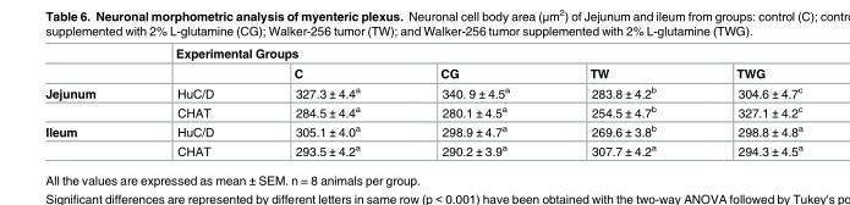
<table><thead><tr><td rowspan="2"></td><td colspan="5">Experimental Groups</td></tr><tr><td></td><td>C</td><td>CG</td><td>TW</td><td>TWG</td></tr></thead><tbody><tr><td rowspan="2">Jejunum</td><td>HuC/D</td><td>327.3 ± 4.4<sup>a</sup></td><td>340. 9 ± 4.5<sup>a</sup></td><td>283.8 ± 4.2<sup>b</sup></td><td>304.6 ± 4.7<sup>c</sup></td></tr><tr><td>CHAT</td><td>284.5 ± 4.4<sup>a</sup></td><td>280.1 ± 4.5<sup>a</sup></td><td>254.5 ± 4.7<sup>b</sup></td><td>327.1 ± 4.2<sup>c</sup></td></tr><tr><td rowspan="2">Ileum</td><td>HuC/D</td><td>305.1 ± 4.0<sup>a</sup></td><td>298.9 ± 4.7<sup>a</sup></td><td>269.6 ± 3.8<sup>b</sup></td><td>298.8 ± 4.8<sup>a</sup></td></tr><tr><td>CHAT</td><td>293.5 ± 4.2<sup>a</sup></td><td>290.2 ± 3.9<sup>a</sup></td><td>307.7 ± 4.2<sup>a</sup></td><td>294.3 ± 4.5<sup>a</sup></td></tr></tbody></table>